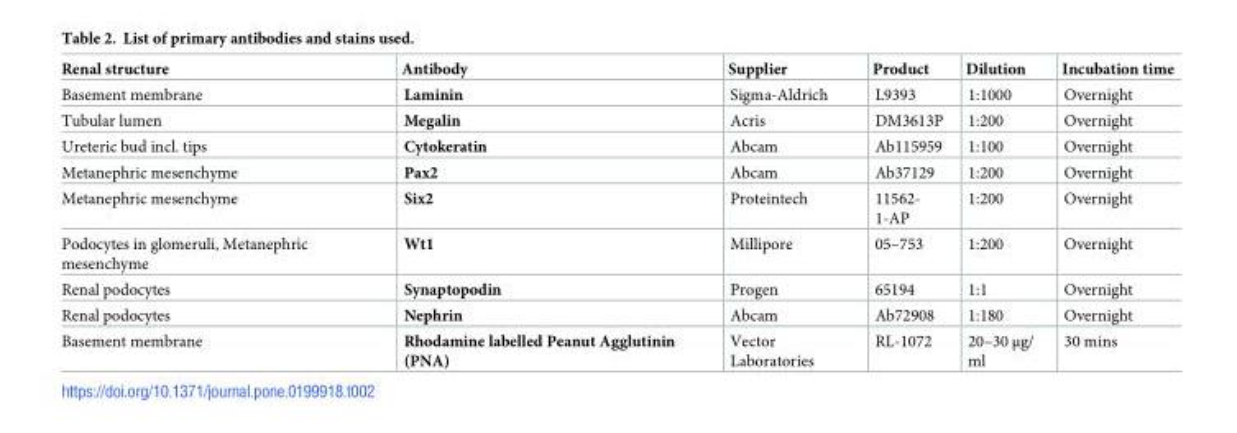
<table><thead><tr><td>Renal structure</td><td>Antibody</td><td>Supplier</td><td>Product</td><td>Dilution</td><td>Incubation time</td></tr></thead><tbody><tr><td>Basement membrane</td><td>Laminin</td><td>Sigma-Aldrich</td><td>L9393</td><td>1:1000</td><td>Overnight</td></tr><tr><td>Tubular lumen</td><td>Megalin</td><td>Acris</td><td>DM3613P</td><td>1:200</td><td>Overnight</td></tr><tr><td>Ureteric bud incl. tips</td><td>Cytokeratin</td><td>Abcam</td><td>Ab115959</td><td>1:100</td><td>Overnight</td></tr><tr><td>Metanephric mesenchyme</td><td>Pax2</td><td>Abcam</td><td>Ab37129</td><td>1:200</td><td>Overnight</td></tr><tr><td>Metanephric mesenchyme</td><td>Six2</td><td>Proteintech</td><td>11562- 1-AP</td><td>1:200</td><td>Overnight</td></tr><tr><td>Podocytes in glomeruli, Metanephric mesenchyme</td><td>Wt1</td><td>Millipore</td><td>05–753</td><td>1:200</td><td>Overnight</td></tr><tr><td>Renal podocytes</td><td>Synaptopodin</td><td>Progen</td><td>65194</td><td>1:1</td><td>Overnight</td></tr><tr><td>Renal podocytes</td><td>Nephrin</td><td>Abcam</td><td>Ab72908</td><td>1:180</td><td>Overnight</td></tr><tr><td>Basement membrane</td><td>Rhodamine labelled Peanut Agglutinin (PNA)</td><td>Vector Laboratories</td><td>RL-1072</td><td>20–30 μg/ ml</td><td>30 mins</td></tr></tbody></table>